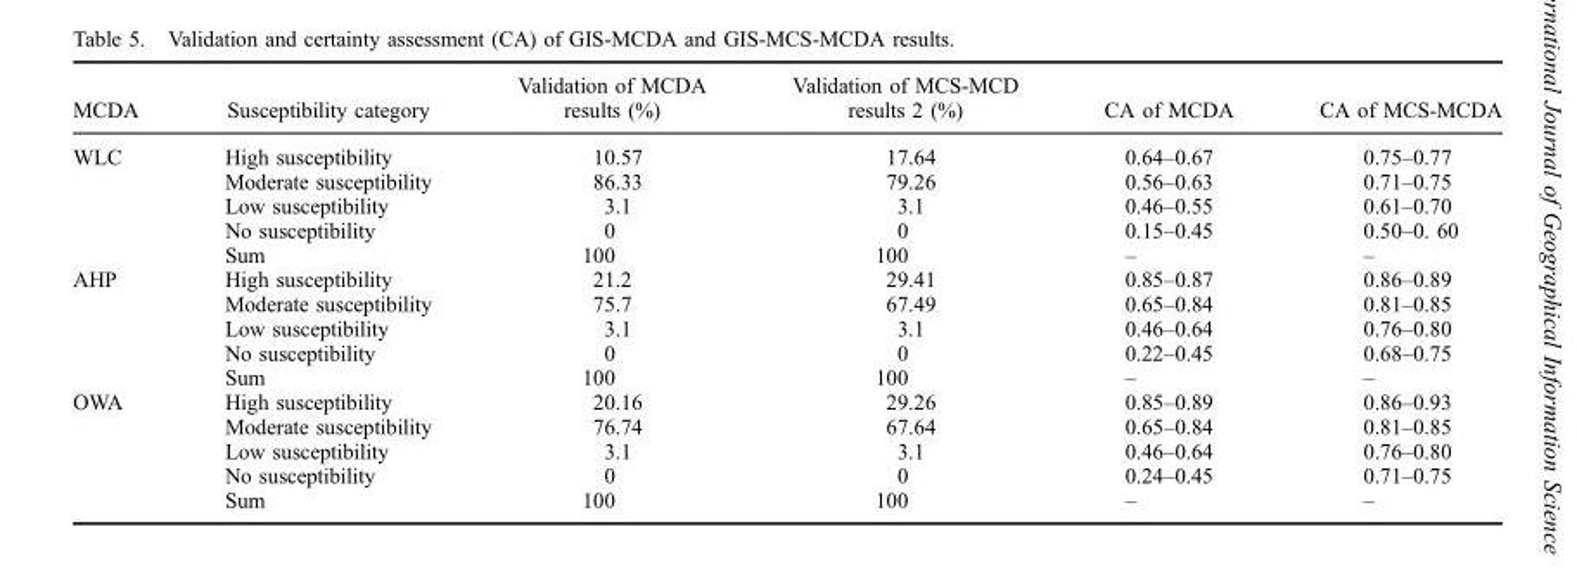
<table><thead><tr><td>MCDA</td><td>Susceptibility category</td><td>Validation of MCDA results (%)</td><td>Validation of MCS-MCD results 2 (%)</td><td>CA of MCDA</td><td>CA of MCS-MCDA</td></tr></thead><tbody><tr><td rowspan="5">WLC</td><td>High susceptibility</td><td>10.57</td><td>17.64</td><td>0.64–0.67</td><td>0.75–0.77</td></tr><tr><td>Moderate susceptibility</td><td>86.33</td><td>79.26</td><td>0.56–0.63</td><td>0.71–0.75</td></tr><tr><td>Low susceptibility</td><td>3.1</td><td>3.1</td><td>0.46–0.55</td><td>0.61–0.70</td></tr><tr><td>No susceptibility</td><td>0</td><td>0</td><td>0.15–0.45</td><td>0.50–0. 60</td></tr><tr><td>Sum</td><td>100</td><td>100</td><td>–</td><td>–</td></tr><tr><td rowspan="5">AHP</td><td>High susceptibility</td><td>21.2</td><td>29.41</td><td>0.85–0.87</td><td>0.86–0.89</td></tr><tr><td>Moderate susceptibility</td><td>75.7</td><td>67.49</td><td>0.65–0.84</td><td>0.81–0.85</td></tr><tr><td>Low susceptibility</td><td>3.1</td><td>3.1</td><td>0.46–0.64</td><td>0.76–0.80</td></tr><tr><td>No susceptibility</td><td>0</td><td>0</td><td>0.22–0.45</td><td>0.68–0.75</td></tr><tr><td>Sum</td><td>100</td><td>100</td><td>–</td><td>–</td></tr><tr><td rowspan="5">OWA</td><td>High susceptibility</td><td>20.16</td><td>29.26</td><td>0.85–0.89</td><td>0.86–0.93</td></tr><tr><td>Moderate susceptibility</td><td>76.74</td><td>67.64</td><td>0.65–0.84</td><td>0.81–0.85</td></tr><tr><td>Low susceptibility</td><td>3.1</td><td>3.1</td><td>0.46–0.64</td><td>0.76–0.80</td></tr><tr><td>No susceptibility</td><td>0</td><td>0</td><td>0.24–0.45</td><td>0.71–0.75</td></tr><tr><td>Sum</td><td>100</td><td>100</td><td>–</td><td>–</td></tr></tbody></table>